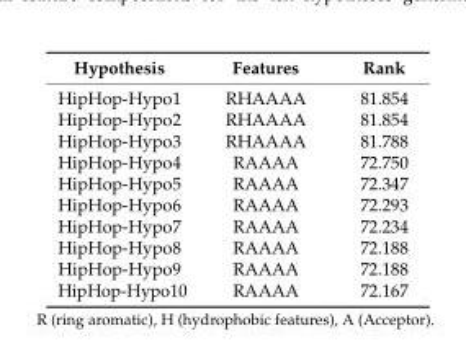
<table><thead><tr><td>Hypothesis</td><td>Features</td><td>Rank</td></tr></thead><tbody><tr><td>HipHop-Hypo1</td><td>RHAAAA</td><td>81.854</td></tr><tr><td>HipHop-Hypo2</td><td>RHAAAA</td><td>81.854</td></tr><tr><td>HipHop-Hypo3</td><td>RHAAAA</td><td>81.788</td></tr><tr><td>HipHop-Hypo4</td><td>RAAAA</td><td>72.750</td></tr><tr><td>HipHop-Hypo5</td><td>RAAAA</td><td>72.347</td></tr><tr><td>HipHop-Hypo6</td><td>RAAAA</td><td>72.293</td></tr><tr><td>HipHop-Hypo7</td><td>RAAAA</td><td>72.234</td></tr><tr><td>HipHop-Hypo8</td><td>RAAAA</td><td>72.188</td></tr><tr><td>HipHop-Hypo9</td><td>RAAAA</td><td>72.188</td></tr><tr><td>HipHop-Hypo10</td><td>RAAAA</td><td>72.167</td></tr></tbody></table>